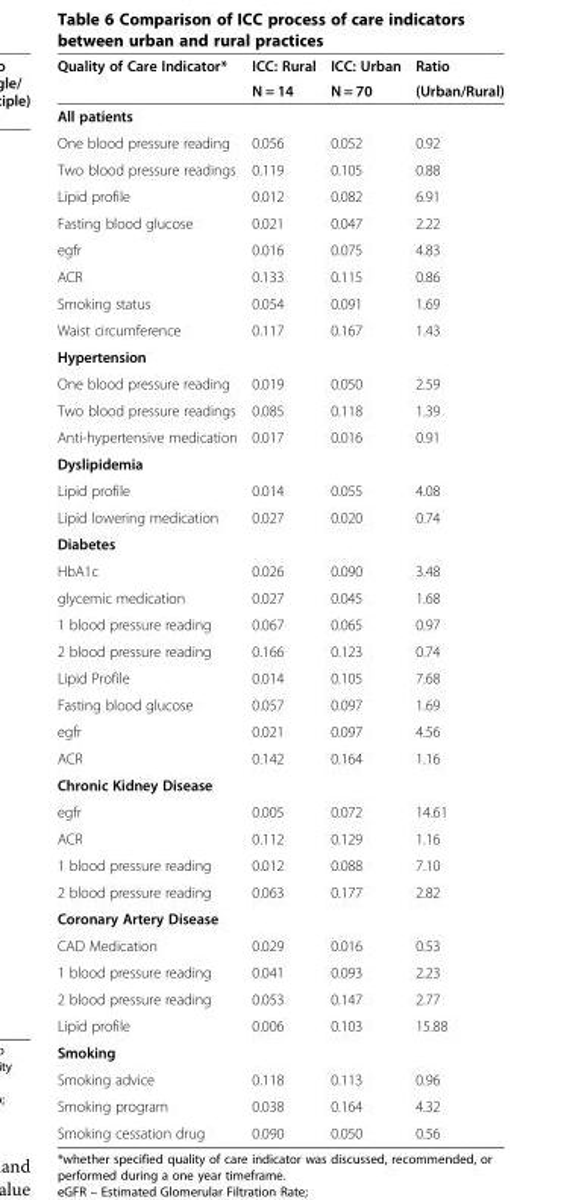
<table><thead><tr><td rowspan="2">Quality of Care Indicator*</td><td rowspan="2">ICC: Rural N = 14</td><td rowspan="2">ICC: Urban N = 70</td><td rowspan="2">Ratio (Urban/Rural)</td></tr><tr></tr></thead><tbody><tr><td colspan="4">All patients</td></tr><tr><td>One blood pressure reading</td><td>0.056</td><td>0.052</td><td>0.92</td></tr><tr><td>Two blood pressure readings</td><td>0.119</td><td>0.105</td><td>0.88</td></tr><tr><td>Lipid profile</td><td>0.012</td><td>0.082</td><td>6.91</td></tr><tr><td>Fasting blood glucose</td><td>0.021</td><td>0.047</td><td>2.22</td></tr><tr><td>egfr</td><td>0.016</td><td>0.075</td><td>4.83</td></tr><tr><td>ACR</td><td>0.133</td><td>0.115</td><td>0.86</td></tr><tr><td>Smoking status</td><td>0.054</td><td>0.091</td><td>1.69</td></tr><tr><td>Waist circumference</td><td>0.117</td><td>0.167</td><td>1.43</td></tr><tr><td colspan="4">Hypertension</td></tr><tr><td>One blood pressure reading</td><td>0.019</td><td>0.050</td><td>2.59</td></tr><tr><td>Two blood pressure readings</td><td>0.085</td><td>0.118</td><td>1.39</td></tr><tr><td>Anti-hypertensive medication</td><td>0.017</td><td>0.016</td><td>0.91</td></tr><tr><td colspan="4">Dyslipidemia</td></tr><tr><td>Lipid profile</td><td>0.014</td><td>0.055</td><td>4.08</td></tr><tr><td>Lipid lowering medication</td><td>0.027</td><td>0.020</td><td>0.74</td></tr><tr><td colspan="4">Diabetes</td></tr><tr><td>HbA1c</td><td>0.026</td><td>0.090</td><td>3.48</td></tr><tr><td>glycemic medication</td><td>0.027</td><td>0.045</td><td>1.68</td></tr><tr><td>1 blood pressure reading</td><td>0.067</td><td>0.065</td><td>0.97</td></tr><tr><td>2 blood pressure reading</td><td>0.166</td><td>0.123</td><td>0.74</td></tr><tr><td>Lipid Profile</td><td>0.014</td><td>0.105</td><td>7.68</td></tr><tr><td>Fasting blood glucose</td><td>0.057</td><td>0.097</td><td>1.69</td></tr><tr><td>egfr</td><td>0.021</td><td>0.097</td><td>4.56</td></tr><tr><td>ACR</td><td>0.142</td><td>0.164</td><td>1.16</td></tr><tr><td colspan="4">Chronic Kidney Disease</td></tr><tr><td>egfr</td><td>0.005</td><td>0.072</td><td>14.61</td></tr><tr><td>ACR</td><td>0.112</td><td>0.129</td><td>1.16</td></tr><tr><td>1 blood pressure reading</td><td>0.012</td><td>0.088</td><td>7.10</td></tr><tr><td>2 blood pressure reading</td><td>0.063</td><td>0.177</td><td>2.82</td></tr><tr><td colspan="4">Coronary Artery Disease</td></tr><tr><td>CAD Medication</td><td>0.029</td><td>0.016</td><td>0.53</td></tr><tr><td>1 blood pressure reading</td><td>0.041</td><td>0.093</td><td>2.23</td></tr><tr><td>2 blood pressure reading</td><td>0.053</td><td>0.147</td><td>2.77</td></tr><tr><td>Lipid profile</td><td>0.006</td><td>0.103</td><td>15.88</td></tr><tr><td colspan="4">Smoking</td></tr><tr><td>Smoking advice</td><td>0.118</td><td>0.113</td><td>0.96</td></tr><tr><td>Smoking program</td><td>0.038</td><td>0.164</td><td>4.32</td></tr><tr><td>Smoking cessation drug</td><td>0.090</td><td>0.050</td><td>0.56</td></tr></tbody></table>